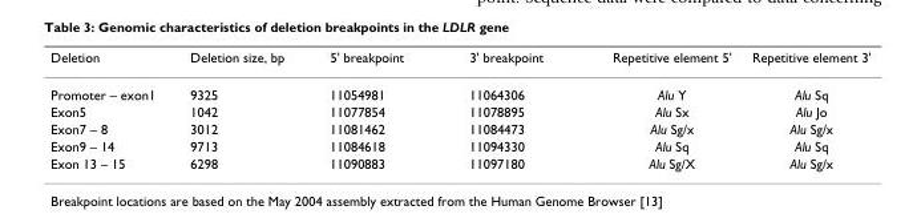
<table><thead><tr><td>Deletion</td><td>Deletion size, bp</td><td>5&#x27; breakpoint</td><td>3&#x27; breakpoint</td><td>Repetitive element 5&#x27;</td><td>Repetitive element 3&#x27;</td></tr></thead><tbody><tr><td>Promoter – exon1</td><td>9325</td><td>11054981</td><td>11064306</td><td>Alu Y</td><td>Alu Sq</td></tr><tr><td>Exon5</td><td>1042</td><td>11077854</td><td>11078895</td><td>Alu Sx</td><td>Alu Jo</td></tr><tr><td>Exon7 – 8</td><td>3012</td><td>11081462</td><td>11084473</td><td>Alu Sg/x</td><td>Alu Sg/x</td></tr><tr><td>Exon9 – 14</td><td>9713</td><td>11084618</td><td>11094330</td><td>Alu Sq</td><td>Alu Sq</td></tr><tr><td>Exon 13 – 15</td><td>6298</td><td>11090883</td><td>11097180</td><td>Alu Sg/X</td><td>Alu Sg/x</td></tr></tbody></table>